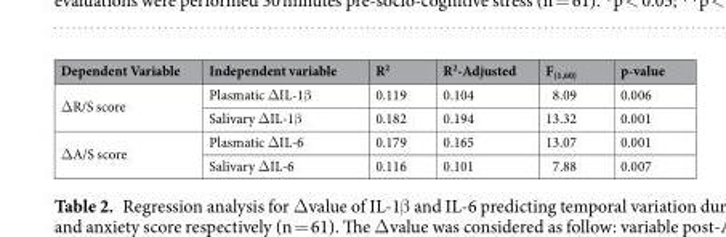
<table><thead><tr><td>Dependent Variable</td><td>Independent variable</td><td>R<sup>2</sup></td><td>R<sup>2</sup>-Adjusted</td><td>F<sub>(1,60)</sub></td><td>p-value</td></tr></thead><tbody><tr><td rowspan="2">ΔR/S score</td><td>Plasmatic ΔIL-1β</td><td>0.119</td><td>0.104</td><td>8.09</td><td>0.006</td></tr><tr><td>Salivary ΔIL-1β</td><td>0.182</td><td>0.194</td><td>13.32</td><td>0.001</td></tr><tr><td rowspan="2">ΔA/S score</td><td>Plasmatic ΔIL-6</td><td>0.179</td><td>0.165</td><td>13.07</td><td>0.001</td></tr><tr><td>Salivary ΔIL-6</td><td>0.116</td><td>0.101</td><td>7.88</td><td>0.007</td></tr></tbody></table>